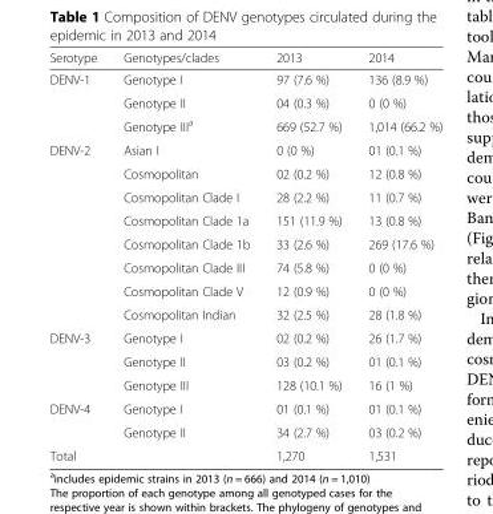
<table><thead><tr><td>Serotype</td><td>Genotypes/clades</td><td>2013</td><td>2014</td></tr></thead><tbody><tr><td rowspan="3">DENV-1</td><td>Genotype I</td><td>97 (7.6 %)</td><td>136 (8.9 %)</td></tr><tr><td>Genotype II</td><td>04 (0.3 %)</td><td>0 (0 %)</td></tr><tr><td>Genotype III<sup>a</sup></td><td>669 (52.7 %)</td><td>1,014 (66.2 %)</td></tr><tr><td rowspan="8">DENV-2</td><td>Asian I</td><td>0 (0 %)</td><td>01 (0.1 %)</td></tr><tr><td>Cosmopolitan</td><td>02 (0.2 %)</td><td>12 (0.8 %)</td></tr><tr><td>Cosmopolitan Clade I</td><td>28 (2.2 %)</td><td>11 (0.7 %)</td></tr><tr><td>Cosmopolitan Clade 1a</td><td>151 (11.9 %)</td><td>13 (0.8 %)</td></tr><tr><td>Cosmopolitan Clade 1b</td><td>33 (2.6 %)</td><td>269 (17.6 %)</td></tr><tr><td>Cosmopolitan Clade III</td><td>74 (5.8 %)</td><td>0 (0 %)</td></tr><tr><td>Cosmopolitan Clade V</td><td>12 (0.9 %)</td><td>0 (0 %)</td></tr><tr><td>Cosmopolitan Indian</td><td>32 (2.5 %)</td><td>28 (1.8 %)</td></tr><tr><td rowspan="3">DENV-3</td><td>Genotype I</td><td>02 (0.2 %)</td><td>26 (1.7 %)</td></tr><tr><td>Genotype II</td><td>03 (0.2 %)</td><td>01 (0.1 %)</td></tr><tr><td>Genotype III</td><td>128 (10.1 %)</td><td>16 (1 %)</td></tr><tr><td rowspan="2">DENV-4</td><td>Genotype I</td><td>01 (0.1 %)</td><td>01 (0.1 %)</td></tr><tr><td>Genotype II</td><td>34 (2.7 %)</td><td>03 (0.2 %)</td></tr><tr><td>Total</td><td></td><td>1,270</td><td>1,531</td></tr></tbody></table>